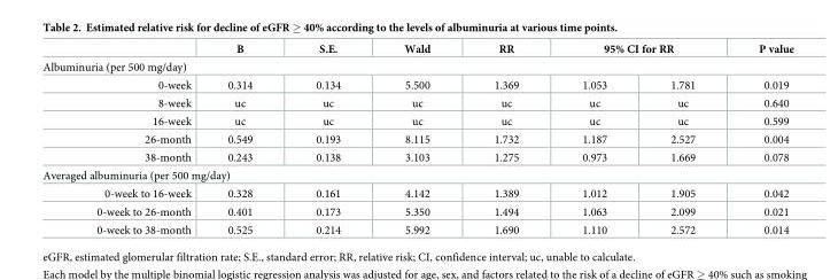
<table><thead><tr><td></td><td>B</td><td>S.E.</td><td>Wald</td><td>RR</td><td colspan="2">95% CI for RR</td><td>P value</td></tr><tr><td colspan="8">Albuminuria (per 500 mg/day)</td></tr><tr><td>0-week</td><td>0.314</td><td>0.134</td><td>5.500</td><td>1.369</td><td>1.053</td><td>1.781</td><td>0.019</td></tr></thead><tbody><tr><td>8-week</td><td>uc</td><td>uc</td><td>uc</td><td>uc</td><td>uc</td><td>uc</td><td>0.640</td></tr><tr><td>16-week</td><td>uc</td><td>uc</td><td>uc</td><td>uc</td><td>uc</td><td>uc</td><td>0.599</td></tr><tr><td>26-month</td><td>0.549</td><td>0.193</td><td>8.115</td><td>1.732</td><td>1.187</td><td>2.527</td><td>0.004</td></tr><tr><td>38-month</td><td>0.243</td><td>0.138</td><td>3.103</td><td>1.275</td><td>0.973</td><td>1.669</td><td>0.078</td></tr><tr><td colspan="8">Averaged albuminuria (per 500 mg/day)</td></tr><tr><td>0-week to 16-week</td><td>0.328</td><td>0.161</td><td>4.142</td><td>1.389</td><td>1.012</td><td>1.905</td><td>0.042</td></tr><tr><td>0-week to 26-month</td><td>0.401</td><td>0.173</td><td>5.350</td><td>1.494</td><td>1.063</td><td>2.099</td><td>0.021</td></tr><tr><td>0-week to 38-month</td><td>0.525</td><td>0.214</td><td>5.992</td><td>1.690</td><td>1.110</td><td>2.572</td><td>0.014</td></tr></tbody></table>